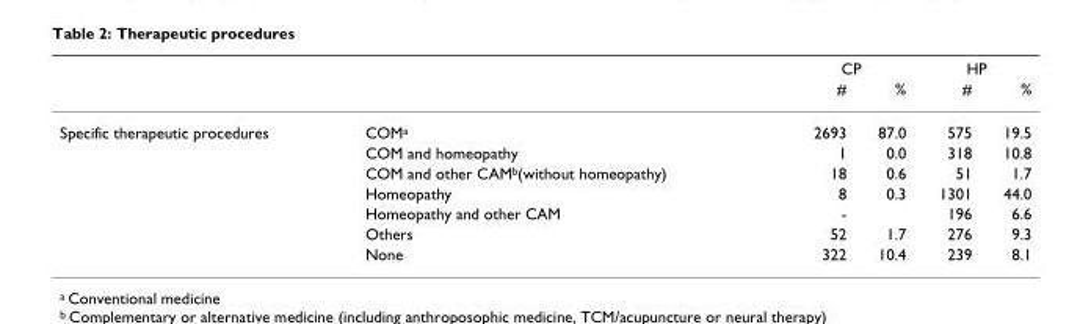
<table><thead><tr><td rowspan="2"></td><td rowspan="2"></td><td colspan="2">CP</td><td colspan="2">HP</td></tr><tr><td>#</td><td>%</td><td>#</td><td>%</td></tr></thead><tbody><tr><td rowspan="7">Specific therapeutic procedures</td><td>COM<sup>a</sup></td><td>2693</td><td>87.0</td><td>575</td><td>19.5</td></tr><tr><td>COM and homeopathy</td><td>1</td><td>0.0</td><td>318</td><td>10.8</td></tr><tr><td>COM and other CAM<sup>b</sup>(without homeopathy)</td><td>18</td><td>0.6</td><td>51</td><td>1.7</td></tr><tr><td>Homeopathy</td><td>8</td><td>0.3</td><td>1301</td><td>44.0</td></tr><tr><td>Homeopathy and other CAM</td><td>-</td><td></td><td>196</td><td>6.6</td></tr><tr><td>Others</td><td>52</td><td>1.7</td><td>276</td><td>9.3</td></tr><tr><td>None</td><td>322</td><td>10.4</td><td>239</td><td>8.1</td></tr></tbody></table>